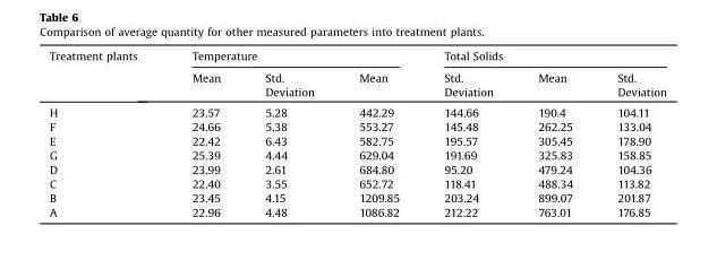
<table><thead><tr><td rowspan="3">Treatment plants</td><td colspan="3">Temperature</td><td colspan="3">Total Solids</td></tr><tr><td rowspan="2">Mean</td><td rowspan="2">Std. Deviation</td><td rowspan="2">Mean</td><td rowspan="2">Std. Deviation</td><td rowspan="2">Mean</td><td rowspan="2">Std. Deviation</td></tr><tr></tr></thead><tbody><tr><td>H</td><td>23.57</td><td>5.28</td><td>442.29</td><td>144.66</td><td>190.4</td><td>104.11</td></tr><tr><td>F</td><td>24.66</td><td>5.38</td><td>553.27</td><td>145.48</td><td>262.25</td><td>133.04</td></tr><tr><td>E</td><td>22.42</td><td>6.43</td><td>582.75</td><td>195.57</td><td>305.45</td><td>178.90</td></tr><tr><td>G</td><td>25.39</td><td>4.44</td><td>629.04</td><td>191.69</td><td>325.83</td><td>158.85</td></tr><tr><td>D</td><td>23.99</td><td>2.61</td><td>684.80</td><td>95.20</td><td>479.24</td><td>104.36</td></tr><tr><td>C</td><td>22.40</td><td>3.55</td><td>652.72</td><td>118.41</td><td>488.34</td><td>113.82</td></tr><tr><td>B</td><td>23.45</td><td>4.15</td><td>1209.85</td><td>203.24</td><td>899.07</td><td>201.87</td></tr><tr><td>A</td><td>22.96</td><td>4.48</td><td>1086.82</td><td>212.22</td><td>763.01</td><td>176.85</td></tr></tbody></table>